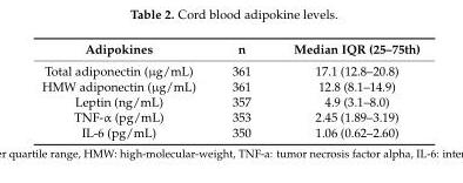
<table><thead><tr><td>Adipokines</td><td>n</td><td>Median IQR (25–75th)</td></tr></thead><tbody><tr><td>Total adiponectin (µg/mL)</td><td>361</td><td>17.1 (12.8–20.8)</td></tr><tr><td>HMW adiponectin (µg/mL)</td><td>361</td><td>12.8 (8.1–14.9)</td></tr><tr><td>Leptin (ng/mL)</td><td>357</td><td>4.9 (3.1–8.0)</td></tr><tr><td>TNF-α (pg/mL)</td><td>353</td><td>2.45 (1.89–3.19)</td></tr><tr><td>IL-6 (pg/mL)</td><td>350</td><td>1.06 (0.62–2.60)</td></tr></tbody></table>